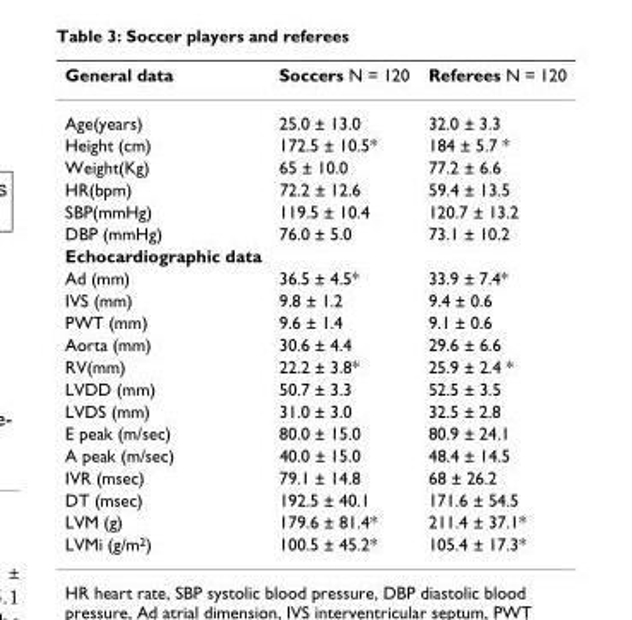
<table><thead><tr><td>General data</td><td>Soccers N = 120</td><td>Referees N = 120</td></tr></thead><tbody><tr><td>Age(years)</td><td>25.0 ± 13.0</td><td>32.0 ± 3.3</td></tr><tr><td>Height (cm)</td><td>172.5 ± 10.5*</td><td>184 ± 5.7 *</td></tr><tr><td>Weight(Kg)</td><td>65 ± 10.0</td><td>77.2 ± 6.6</td></tr><tr><td>HR(bpm)</td><td>72.2 ± 12.6</td><td>59.4 ± 13.5</td></tr><tr><td>SBP(mmHg)</td><td>119.5 ± 10.4</td><td>120.7 ± 13.2</td></tr><tr><td>DBP (mmHg)</td><td>76.0 ± 5.0</td><td>73.1 ± 10.2</td></tr><tr><td colspan="3">Echocardiographic data</td></tr><tr><td>Ad (mm)</td><td>36.5 ± 4.5*</td><td>33.9 ± 7.4*</td></tr><tr><td>IVS (mm)</td><td>9.8 ± 1.2</td><td>9.4 ± 0.6</td></tr><tr><td>PWT (mm)</td><td>9.6 ± 1.4</td><td>9.1 ± 0.6</td></tr><tr><td>Aorta (mm)</td><td>30.6 ± 4.4</td><td>29.6 ± 6.6</td></tr><tr><td>RV(mm)</td><td>22.2 ± 3.8*</td><td>25.9 ± 2.4 *</td></tr><tr><td>LVDD (mm)</td><td>50.7 ± 3.3</td><td>52.5 ± 3.5</td></tr><tr><td>LVDS (mm)</td><td>31.0 ± 3.0</td><td>32.5 ± 2.8</td></tr><tr><td>E peak (m/sec)</td><td>80.0 ± 15.0</td><td>80.9 ± 24.1</td></tr><tr><td>A peak (m/sec)</td><td>40.0 ± 15.0</td><td>48.4 ± 14.5</td></tr><tr><td>IVR (msec)</td><td>79.1 ± 14.8</td><td>68 ± 26.2</td></tr><tr><td>DT (msec)</td><td>192.5 ± 40.1</td><td>171.6 ± 54.5</td></tr><tr><td>LVM (g)</td><td>179.6 ± 81.4*</td><td>211.4 ± 37.1*</td></tr><tr><td>LVMi (g/m<sup>2</sup>)</td><td>100.5 ± 45.2*</td><td>105.4 ± 17.3*</td></tr></tbody></table>